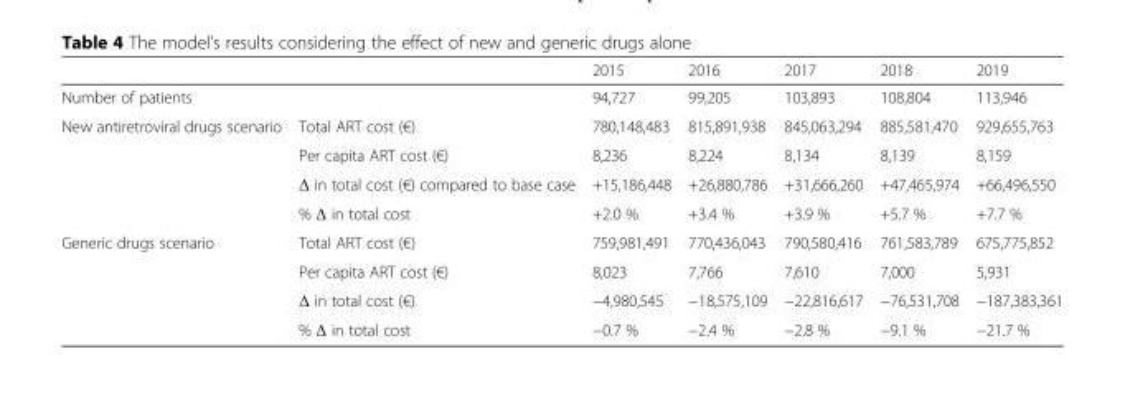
<table><thead><tr><td></td><td></td><td>2015</td><td>2016</td><td>2017</td><td>2018</td><td>2019</td></tr></thead><tbody><tr><td colspan="2">Number of patients</td><td>94,727</td><td>99,205</td><td>103,893</td><td>108,804</td><td>113,946</td></tr><tr><td rowspan="4">New antiretroviral drugs scenario</td><td>Total ART cost (€)</td><td>780,148,483</td><td>815,891,938</td><td>845,063,294</td><td>885,581,470</td><td>929,655,763</td></tr><tr><td>Per capita ART cost (€)</td><td>8,236</td><td>8,224</td><td>8,134</td><td>8,139</td><td>8,159</td></tr><tr><td>Δ in total cost (€) compared to base case</td><td>+15,186,448</td><td>+26,880,786</td><td>+31,666,260</td><td>+47,465,974</td><td>+66,496,550</td></tr><tr><td>% Δ in total cost</td><td>+2.0 %</td><td>+3.4 %</td><td>+3.9 %</td><td>+5.7 %</td><td>+7.7 %</td></tr><tr><td rowspan="4">Generic drugs scenario</td><td>Total ART cost (€)</td><td>759,981,491</td><td>770,436,043</td><td>790,580,416</td><td>761,583,789</td><td>675,775,852</td></tr><tr><td>Per capita ART cost (€)</td><td>8,023</td><td>7,766</td><td>7,610</td><td>7,000</td><td>5,931</td></tr><tr><td>Δ in total cost (€)</td><td>−4,980,545</td><td>−18,575,109</td><td>−22,816,617</td><td>−76,531,708</td><td>−187,383,361</td></tr><tr><td>% Δ in total cost</td><td>−0.7 %</td><td>−2.4 %</td><td>−2.8 %</td><td>−9.1 %</td><td>−21.7 %</td></tr></tbody></table>